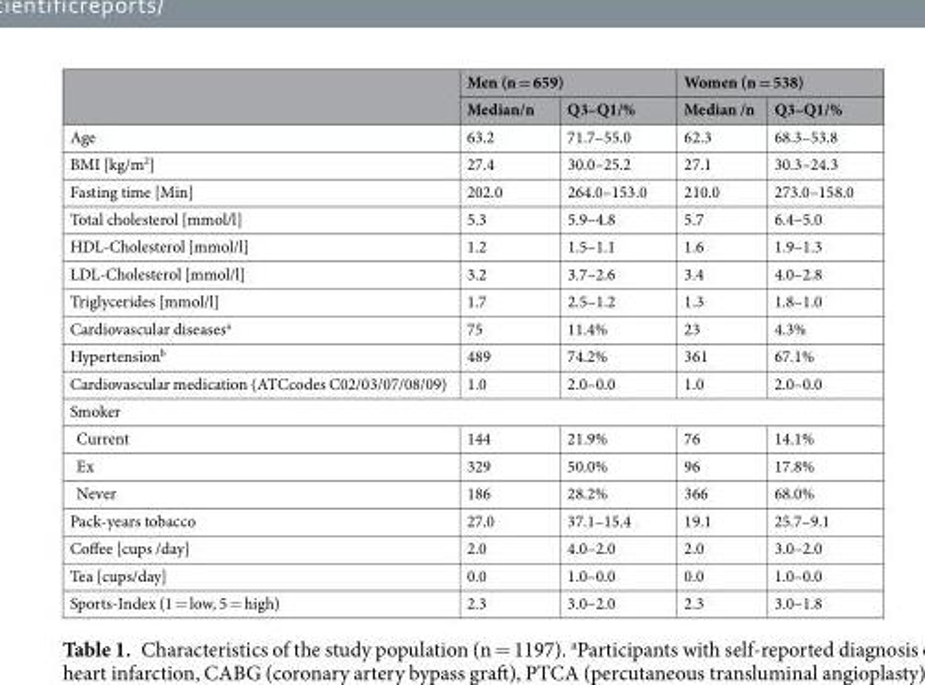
<table><thead><tr><td rowspan="2"></td><td colspan="2">Men (n = 659)</td><td colspan="2">Women (n = 538)</td></tr><tr><td>Median/n</td><td>Q3–Q1/%</td><td>Median /n</td><td>Q3–Q1/%</td></tr></thead><tbody><tr><td>Age</td><td>63.2</td><td>71.7–55.0</td><td>62.3</td><td>68.3–53.8</td></tr><tr><td>BMI [kg/m<sup>2</sup>]</td><td>27.4</td><td>30.0–25.2</td><td>27.1</td><td>30.3–24.3</td></tr><tr><td>Fasting time [Min]</td><td>202.0</td><td>264.0–153.0</td><td>210.0</td><td>273.0–158.0</td></tr><tr><td>Total cholesterol [mmol/l]</td><td>5.3</td><td>5.9–4.8</td><td>5.7</td><td>6.4–5.0</td></tr><tr><td>HDL-Cholesterol [mmol/l]</td><td>1.2</td><td>1.5–1.1</td><td>1.6</td><td>1.9–1.3</td></tr><tr><td>LDL-Cholesterol [mmol/l]</td><td>3.2</td><td>3.7–2.6</td><td>3.4</td><td>4.0–2.8</td></tr><tr><td>Triglycerides [mmol/l]</td><td>1.7</td><td>2.5–1.2</td><td>1.3</td><td>1.8–1.0</td></tr><tr><td>Cardiovascular diseases<sup>a</sup></td><td>75</td><td>11.4%</td><td>23</td><td>4.3%</td></tr><tr><td>Hypertension<sup>b</sup></td><td>489</td><td>74.2%</td><td>361</td><td>67.1%</td></tr><tr><td>Cardiovascular medication (ATCcodes C02/03/07/08/09)</td><td>1.0</td><td>2.0–0.0</td><td>1.0</td><td>2.0–0.0</td></tr><tr><td colspan="5">Smoker</td></tr><tr><td>Current</td><td>144</td><td>21.9%</td><td>76</td><td>14.1%</td></tr><tr><td>Ex</td><td>329</td><td>50.0%</td><td>96</td><td>17.8%</td></tr><tr><td>Never</td><td>186</td><td>28.2%</td><td>366</td><td>68.0%</td></tr><tr><td>Pack-years tobacco</td><td>27.0</td><td>37.1–15.4</td><td>19.1</td><td>25.7–9.1</td></tr><tr><td>Coffee [cups /day]</td><td>2.0</td><td>4.0–2.0</td><td>2.0</td><td>3.0–2.0</td></tr><tr><td>Tea [cups/day]</td><td>0.0</td><td>1.0–0.0</td><td>0.0</td><td>1.0–0.0</td></tr><tr><td>Sports-Index (1 = low, 5 = high)</td><td>2.3</td><td>3.0–2.0</td><td>2.3</td><td>3.0–1.8</td></tr></tbody></table>